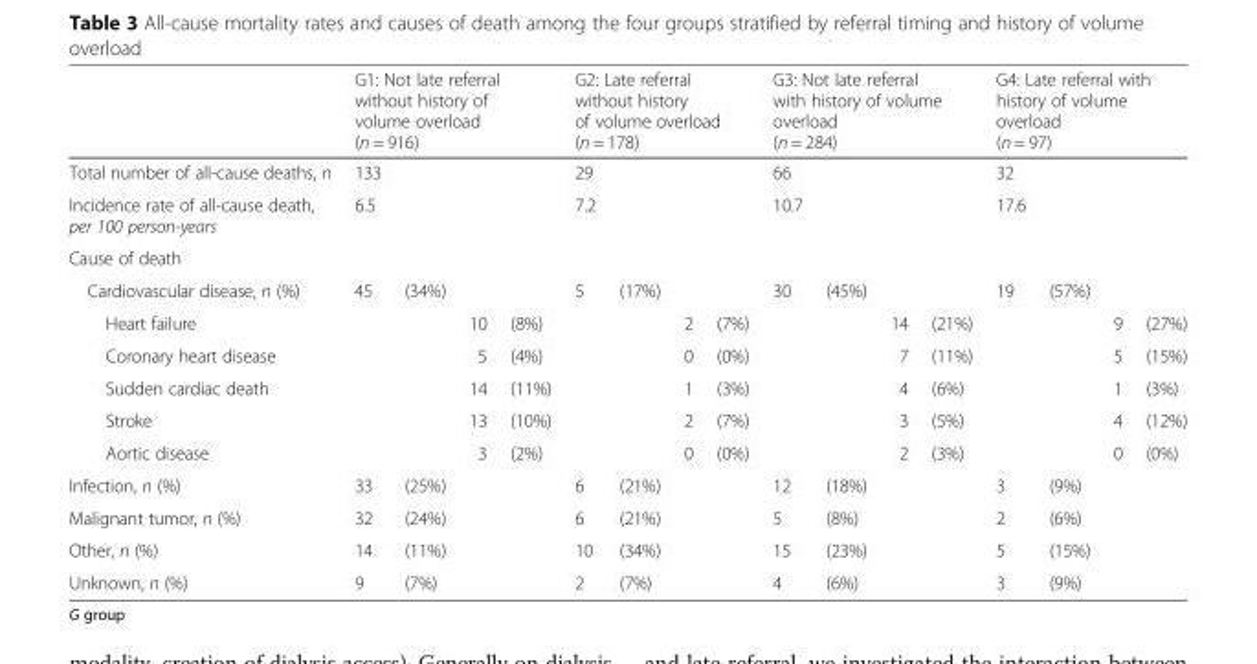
<table><thead><tr><td rowspan="2">Total number of all-cause deaths, n</td><td colspan="4">G1: Not late referral without history of volume overload (n = 916)</td><td colspan="4">G2: Late referral without history of volume overload (n = 178)</td><td colspan="4">G3: Not late referral with history of volume overload (n = 284)</td><td colspan="4">G4: Late referral with history of volume overload (n = 97)</td></tr><tr><td>133</td><td></td><td></td><td></td><td>29</td><td></td><td></td><td></td><td>66</td><td></td><td></td><td></td><td>32</td><td></td><td></td><td></td></tr></thead><tbody><tr><td>Incidence rate of all-cause death, per 100 person-years</td><td>6.5</td><td></td><td></td><td></td><td>7.2</td><td></td><td></td><td></td><td>10.7</td><td></td><td></td><td></td><td>17.6</td><td></td><td></td><td></td></tr><tr><td colspan="17">Cause of death</td></tr><tr><td>Cardiovascular disease, n (%)</td><td>45</td><td>(34%)</td><td></td><td></td><td>5</td><td>(17%)</td><td></td><td></td><td>30</td><td>(45%)</td><td></td><td></td><td>19</td><td>(57%)</td><td></td><td></td></tr><tr><td>Heart failure</td><td></td><td></td><td>10</td><td>(8%)</td><td></td><td></td><td>2</td><td>(7%)</td><td></td><td></td><td>14</td><td>(21%)</td><td></td><td></td><td>9</td><td>(27%)</td></tr><tr><td>Coronary heart disease</td><td></td><td></td><td>5</td><td>(4%)</td><td></td><td></td><td>0</td><td>(0%)</td><td></td><td></td><td>7</td><td>(11%)</td><td></td><td></td><td>5</td><td>(15%)</td></tr><tr><td>Sudden cardiac death</td><td></td><td></td><td>14</td><td>(11%)</td><td></td><td></td><td>1</td><td>(3%)</td><td></td><td></td><td>4</td><td>(6%)</td><td></td><td></td><td>1</td><td>(3%)</td></tr><tr><td>Stroke</td><td></td><td></td><td>13</td><td>(10%)</td><td></td><td></td><td>2</td><td>(7%)</td><td></td><td></td><td>3</td><td>(5%)</td><td></td><td></td><td>4</td><td>(12%)</td></tr><tr><td>Aortic disease</td><td></td><td></td><td>3</td><td>(2%)</td><td></td><td></td><td>0</td><td>(0%)</td><td></td><td></td><td>2</td><td>(3%)</td><td></td><td></td><td>0</td><td>(0%)</td></tr><tr><td>Infection, n (%)</td><td>33</td><td>(25%)</td><td></td><td></td><td>6</td><td>(21%)</td><td></td><td></td><td>12</td><td>(18%)</td><td></td><td></td><td>3</td><td>(9%)</td><td></td><td></td></tr><tr><td>Malignant tumor, n (%)</td><td>32</td><td>(24%)</td><td></td><td></td><td>6</td><td>(21%)</td><td></td><td></td><td>5</td><td>(8%)</td><td></td><td></td><td>2</td><td>(6%)</td><td></td><td></td></tr><tr><td>Other, n (%)</td><td>14</td><td>(11%)</td><td></td><td></td><td>10</td><td>(34%)</td><td></td><td></td><td>15</td><td>(23%)</td><td></td><td></td><td>5</td><td>(15%)</td><td></td><td></td></tr><tr><td>Unknown, n (%)</td><td>9</td><td>(7%)</td><td></td><td></td><td>2</td><td>(7%)</td><td></td><td></td><td>4</td><td>(6%)</td><td></td><td></td><td>3</td><td>(9%)</td><td></td><td></td></tr></tbody></table>